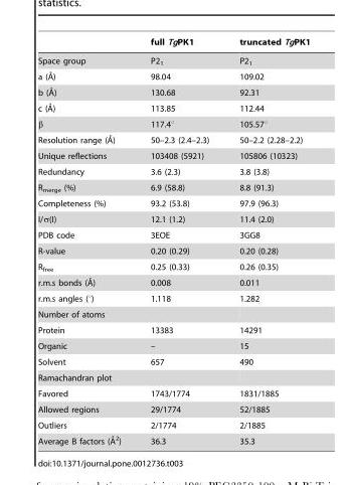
<table><thead><tr><td></td><td>full TgPK1</td><td>truncated TgPK1</td></tr></thead><tbody><tr><td>Space group</td><td>P2<sub>1</sub></td><td>P2<sub>1</sub></td></tr><tr><td>a (A˚)</td><td>98.04</td><td>109.02</td></tr><tr><td>b (A˚)</td><td>130.68</td><td>92.31</td></tr><tr><td>c (A˚)</td><td>113.85</td><td>112.44</td></tr><tr><td>β</td><td>117.4°</td><td>105.57°</td></tr><tr><td>Resolution range (A˚)</td><td>50–2.3 (2.4–2.3)</td><td>50–2.2 (2.28–2.2)</td></tr><tr><td>Unique reflections</td><td>103408 (5921)</td><td>105806 (10323)</td></tr><tr><td>Redundancy</td><td>3.6 (2.3)</td><td>3.8 (3.8)</td></tr><tr><td>R<sub>merge</sub> (%)</td><td>6.9 (58.8)</td><td>8.8 (91.3)</td></tr><tr><td>Completeness (%)</td><td>93.2 (53.8)</td><td>97.9 (96.3)</td></tr><tr><td>I/σ(I)</td><td>12.1 (1.2)</td><td>11.4 (2.0)</td></tr><tr><td>PDB code</td><td>3EOE</td><td>3GG8</td></tr><tr><td>R-value</td><td>0.20 (0.29)</td><td>0.20 (0.28)</td></tr><tr><td>R<sub>free</sub></td><td>0.25 (0.33)</td><td>0.26 (0.35)</td></tr><tr><td>r.m.s bonds (A˚)</td><td>0.008</td><td>0.011</td></tr><tr><td>r.m.s angles (°)</td><td>1.118</td><td>1.282</td></tr><tr><td colspan="3">Number of atoms</td></tr><tr><td>Protein</td><td>13383</td><td>14291</td></tr><tr><td>Organic</td><td>–</td><td>15</td></tr><tr><td>Solvent</td><td>657</td><td>490</td></tr><tr><td colspan="3">Ramachandran plot</td></tr><tr><td>Favored</td><td>1743/1774</td><td>1831/1885</td></tr><tr><td>Allowed regions</td><td>29/1774</td><td>52/1885</td></tr><tr><td>Outliers</td><td>2/1774</td><td>2/1885</td></tr><tr><td>Average B factors (A˚ 2)</td><td>36.3</td><td>35.3</td></tr></tbody></table>